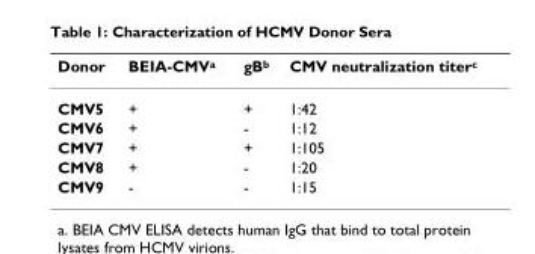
<table><thead><tr><td>Donor</td><td>BEIA-CMV<sup>a</sup></td><td>gB<sup>b</sup></td><td>CMV neutralization titer<sup>c</sup></td></tr></thead><tbody><tr><td>CMV5</td><td>+</td><td>+</td><td>1:42</td></tr><tr><td>CMV6</td><td>+</td><td>-</td><td>1:12</td></tr><tr><td>CMV7</td><td>+</td><td>+</td><td>1:105</td></tr><tr><td>CMV8</td><td>+</td><td>-</td><td>1:20</td></tr><tr><td>CMV9</td><td>-</td><td>-</td><td>1:15</td></tr></tbody></table>